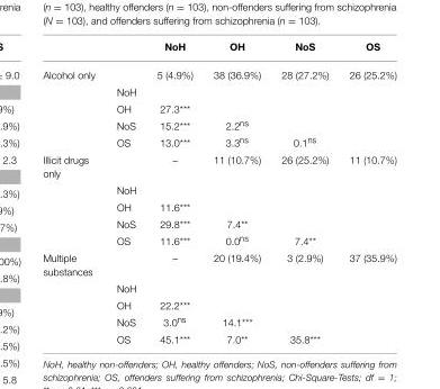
<table><thead><tr><td></td><td></td><td>NoH</td><td>OH</td><td>NoS</td><td>OS</td></tr></thead><tbody><tr><td rowspan="5">Alcohol only</td><td></td><td>5 (4.9%)</td><td>38 (36.9%)</td><td>28 (27.2%)</td><td>26 (25.2%)</td></tr><tr><td>NoH</td><td></td><td></td><td></td><td></td></tr><tr><td>OH</td><td>27.3***</td><td></td><td></td><td></td></tr><tr><td>NoS</td><td>15.2***</td><td>2.2<sup>ns</sup></td><td></td><td></td></tr><tr><td>OS</td><td>13.0***</td><td>3.3<sup>ns</sup></td><td>0.1<sup>ns</sup></td><td></td></tr><tr><td rowspan="5">IlIicit drugs only</td><td></td><td>–</td><td>11 (10.7%)</td><td>26 (25.2%)</td><td>11 (10.7%)</td></tr><tr><td>NoH</td><td></td><td></td><td></td><td></td></tr><tr><td>OH</td><td>11.6***</td><td></td><td></td><td></td></tr><tr><td>NoS</td><td>29.8***</td><td>7.4**</td><td></td><td></td></tr><tr><td>OS</td><td>11.6***</td><td>0.0<sup>ns</sup></td><td>7.4**</td><td></td></tr><tr><td rowspan="5">Multiple substances</td><td></td><td>–</td><td>20 (19.4%)</td><td>3 (2.9%)</td><td>37 (35.9%)</td></tr><tr><td>NoH</td><td></td><td></td><td></td><td></td></tr><tr><td>OH</td><td>22.2***</td><td></td><td></td><td></td></tr><tr><td>NoS</td><td>3.0<sup>ns</sup></td><td>14.1***</td><td></td><td></td></tr><tr><td>OS</td><td>45.1***</td><td>7.0**</td><td>35.8***</td><td></td></tr></tbody></table>